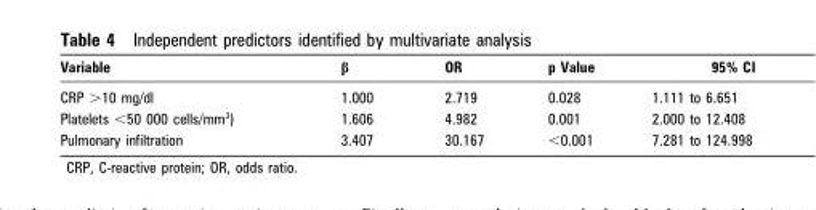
<table><thead><tr><td>Variable</td><td>β</td><td>OR</td><td>p Value</td><td>95% CI</td></tr></thead><tbody><tr><td>CRP &gt;10 mg/dl</td><td>1.000</td><td>2.719</td><td>0.028</td><td>1.111 to 6.651</td></tr><tr><td>Platelets &lt;50 000 cells/mm<sup>3</sup>)</td><td>1.606</td><td>4.982</td><td>0.001</td><td>2.000 to 12.408</td></tr><tr><td>Pulmonary infiltration</td><td>3.407</td><td>30.167</td><td>&lt;0.001</td><td>7.281 to 124.998</td></tr></tbody></table>